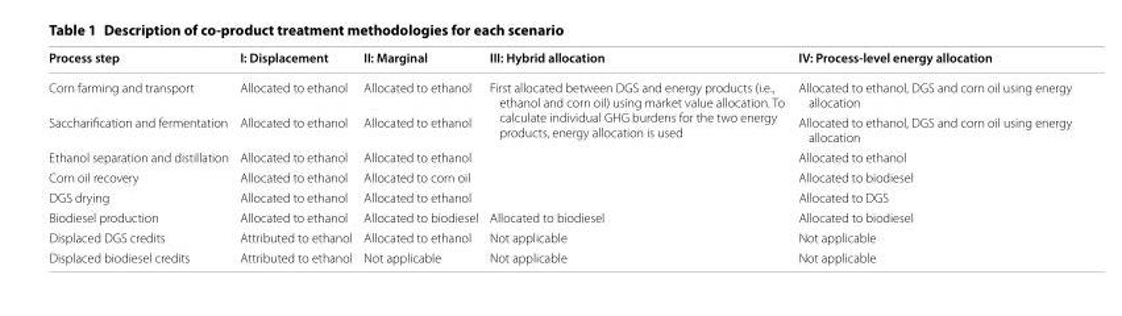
<table><thead><tr><td>Process step</td><td>I: Displacement</td><td>II: Marginal</td><td>III: Hybrid allocation</td><td>IV: Process‑level energy allocation</td></tr></thead><tbody><tr><td>Corn farming and transport</td><td>Allocated to ethanol</td><td>Allocated to ethanol</td><td rowspan="5">First allocated between DGS and energy products (i.e., ethanol and corn oil) using market value allocation. To calculate individual GHG burdens for the two energy products, energy allocation is used</td><td>Allocated to ethanol, DGS and corn oil using energy allocation</td></tr><tr><td>Saccharification and fermentation</td><td>Allocated to ethanol</td><td>Allocated to ethanol</td><td>Allocated to ethanol, DGS and corn oil using energy allocation</td></tr><tr><td>Ethanol separation and distillation</td><td>Allocated to ethanol</td><td>Allocated to ethanol</td><td>Allocated to ethanol</td></tr><tr><td>Corn oil recovery</td><td>Allocated to ethanol</td><td>Allocated to corn oil</td><td>Allocated to biodiesel</td></tr><tr><td>DGS drying</td><td>Allocated to ethanol</td><td>Allocated to ethanol</td><td>Allocated to DGS</td></tr><tr><td>Biodiesel production</td><td>Allocated to ethanol</td><td>Allocated to biodiesel</td><td>Allocated to biodiesel</td><td>Allocated to biodiesel</td></tr><tr><td>Displaced DGS credits</td><td>Attributed to ethanol</td><td>Allocated to ethanol</td><td>Not applicable</td><td>Not applicable</td></tr><tr><td>Displaced biodiesel credits</td><td>Attributed to ethanol</td><td>Not applicable</td><td>Not applicable</td><td>Not applicable</td></tr></tbody></table>